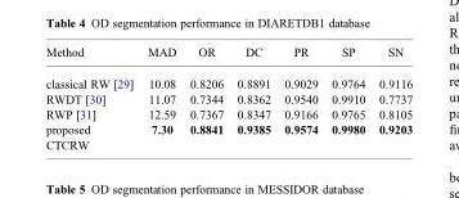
<table><thead><tr><td>Method</td><td>MAD</td><td>OR</td><td>DC</td><td>PR</td><td>SP</td><td>SN</td></tr></thead><tbody><tr><td>classical RW [29]</td><td>10.08</td><td>0.8206</td><td>0.8891</td><td>0.9029</td><td>0.9764</td><td>0.9116</td></tr><tr><td>RWDT [30]</td><td>11.07</td><td>0.7344</td><td>0.8362</td><td>0.9540</td><td>0.9910</td><td>0.7737</td></tr><tr><td>RWP [31]</td><td>12.59</td><td>0.7367</td><td>0.8347</td><td>0.9166</td><td>0.9765</td><td>0.8105</td></tr><tr><td>proposed CTCRW</td><td>7.30</td><td>0.8841</td><td>0.9385</td><td>0.9574</td><td>0.9980</td><td>0.9203</td></tr></tbody></table>